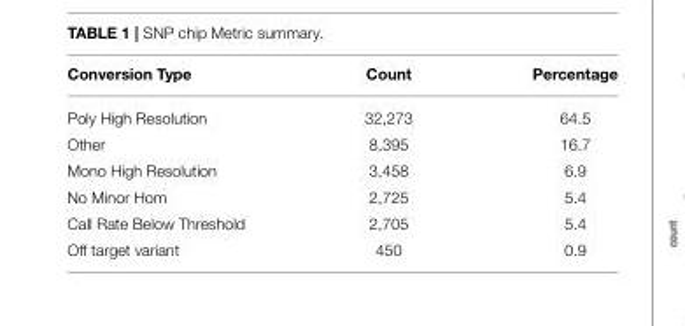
<table><thead><tr><td>Conversion Type</td><td>Count</td><td>Percentage</td></tr></thead><tbody><tr><td>Poly High Resolution</td><td>32,273</td><td>64.5</td></tr><tr><td>Other</td><td>8,395</td><td>16.7</td></tr><tr><td>Mono High Resolution</td><td>3,458</td><td>6.9</td></tr><tr><td>No Minor Hom</td><td>2,725</td><td>5.4</td></tr><tr><td>Call Rate Below Threshold</td><td>2,705</td><td>5.4</td></tr><tr><td>Off target variant</td><td>450</td><td>0.9</td></tr></tbody></table>